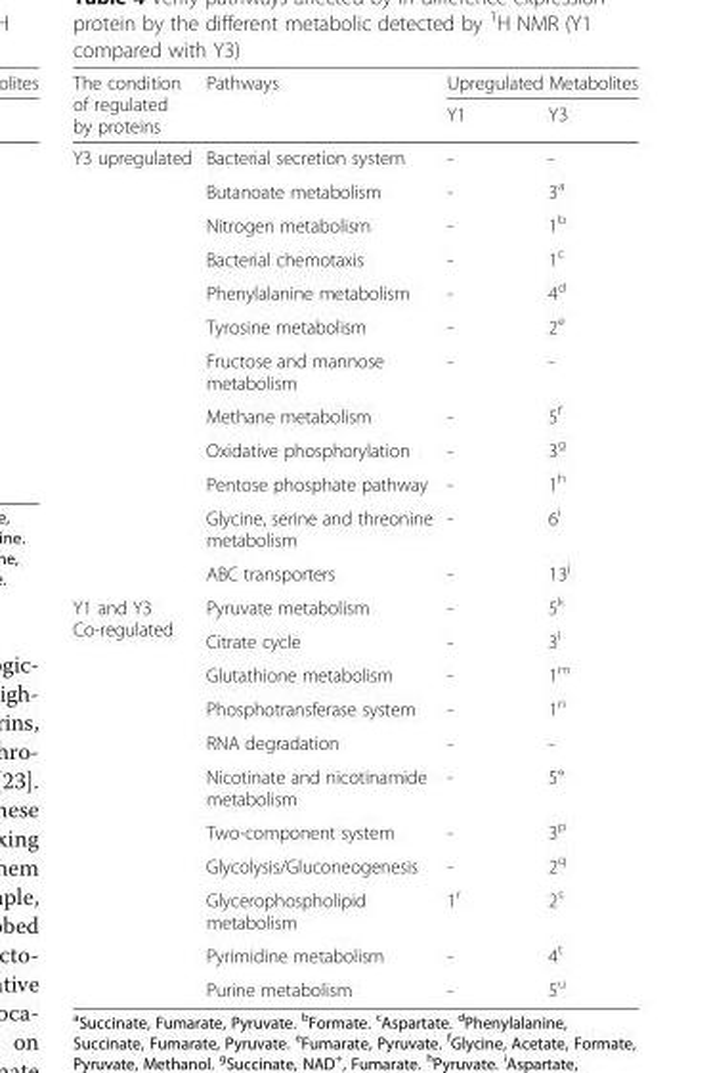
<table><thead><tr><td rowspan="2">The condition of regulated by proteins</td><td rowspan="2">Pathways</td><td colspan="2">Upregulated Metabolites</td></tr><tr><td>Y1</td><td>Y3</td></tr></thead><tbody><tr><td rowspan="12">Y3 upregulated</td><td>Bacterial secretion system</td><td>-</td><td>-</td></tr><tr><td>Butanoate metabolism</td><td>-</td><td>3<sup>a</sup></td></tr><tr><td>Nitrogen metabolism</td><td>-</td><td>1<sup>b</sup></td></tr><tr><td>Bacterial chemotaxis</td><td>-</td><td>1<sup>c</sup></td></tr><tr><td>Phenylalanine metabolism</td><td>-</td><td>4<sup>d</sup></td></tr><tr><td>Tyrosine metabolism</td><td>-</td><td>2<sup>e</sup></td></tr><tr><td>Fructose and mannose metabolism</td><td>-</td><td>-</td></tr><tr><td>Methane metabolism</td><td>-</td><td>5<sup>f</sup></td></tr><tr><td>Oxidative phosphorylation</td><td>-</td><td>3<sup>g</sup></td></tr><tr><td>Pentose phosphate pathway</td><td>-</td><td>1<sup>h</sup></td></tr><tr><td>Glycine, serine and threonine metabolism</td><td>-</td><td>6<sup>i</sup></td></tr><tr><td>ABC transporters</td><td>-</td><td>13<sup>j</sup></td></tr><tr><td rowspan="11">Y1 and Y3 Co-regulated</td><td>Pyruvate metabolism</td><td>-</td><td>5<sup>k</sup></td></tr><tr><td>Citrate cycle</td><td>-</td><td>3<sup>l</sup></td></tr><tr><td>Glutathione metabolism</td><td>-</td><td>1<sup>m</sup></td></tr><tr><td>Phosphotransferase system</td><td>-</td><td>1<sup>n</sup></td></tr><tr><td>RNA degradation</td><td>-</td><td>-</td></tr><tr><td>Nicotinate and nicotinamide metabolism</td><td>-</td><td>5°</td></tr><tr><td>Two-component system</td><td>-</td><td>3<sup>p</sup></td></tr><tr><td>Glycolysis/Gluconeogenesis</td><td>-</td><td>2<sup>q</sup></td></tr><tr><td>Glycerophospholipid metabolism</td><td>1<sup>r</sup></td><td>2<sup>s</sup></td></tr><tr><td>Pyrimidine metabolism</td><td>-</td><td>4<sup>t</sup></td></tr><tr><td>Purine metabolism</td><td>-</td><td>5<sup>u</sup></td></tr></tbody></table>